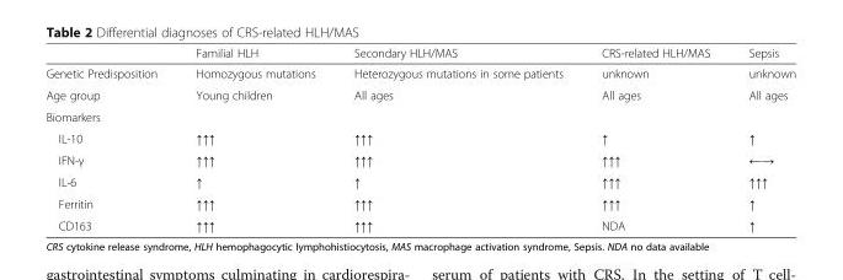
<table><thead><tr><td></td><td>Familial HLH</td><td>Secondary HLH/MAS</td><td>CRS-related HLH/MAS</td><td>Sepsis</td></tr></thead><tbody><tr><td>Genetic Predisposition</td><td>Homozygous mutations</td><td>Heterozygous mutations in some patients</td><td>unknown</td><td>unknown</td></tr><tr><td>Age group</td><td>Young children</td><td>All ages</td><td>All ages</td><td>All ages</td></tr><tr><td colspan="5">Biomarkers</td></tr><tr><td>IL-10</td><td>↑↑↑</td><td>↑↑↑</td><td>↑</td><td>↑</td></tr><tr><td>IFN-γ</td><td>↑↑↑</td><td>↑↑↑</td><td>↑↑↑</td><td>←→</td></tr><tr><td>IL-6</td><td>↑</td><td>↑</td><td>↑↑↑</td><td>↑↑↑</td></tr><tr><td>Ferritin</td><td>↑↑↑</td><td>↑↑↑</td><td>↑↑↑</td><td>↑</td></tr><tr><td>CD163</td><td>↑↑↑</td><td>↑↑↑</td><td>NDA</td><td>↑</td></tr></tbody></table>